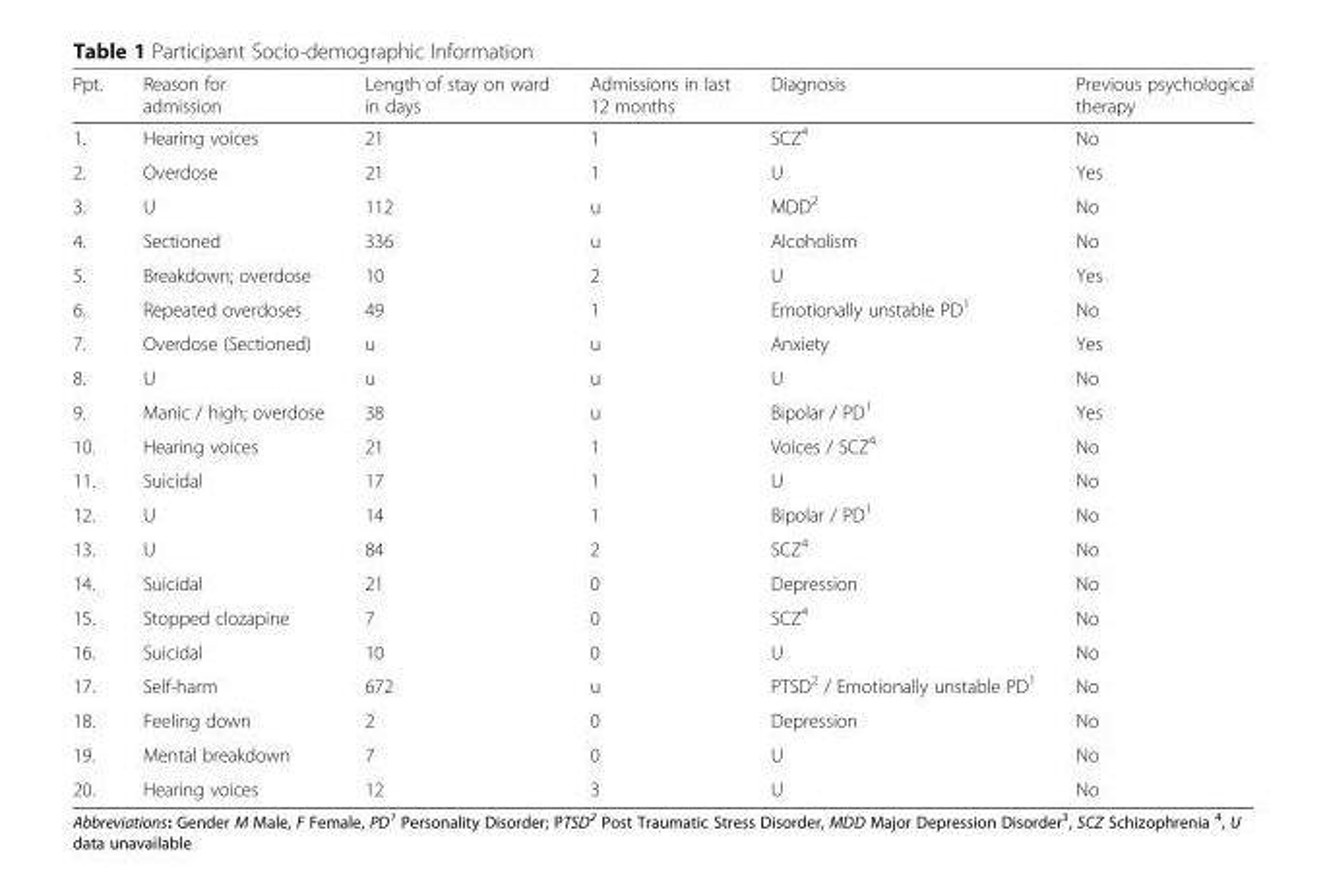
<table><thead><tr><td>Ppt.</td><td>Reason for admission</td><td>Length of stay on ward in days</td><td>Admissions in last 12 months</td><td>Diagnosis</td><td>Previous psychological therapy</td></tr></thead><tbody><tr><td>1.</td><td>Hearing voices</td><td>21</td><td>1</td><td>SCZ<sup>4</sup></td><td>No</td></tr><tr><td>2.</td><td>Overdose</td><td>21</td><td>1</td><td>U</td><td>Yes</td></tr><tr><td>3.</td><td>U</td><td>112</td><td>u</td><td>MDD<sup>2</sup></td><td>No</td></tr><tr><td>4.</td><td>Sectioned</td><td>336</td><td>u</td><td>Alcoholism</td><td>No</td></tr><tr><td>5.</td><td>Breakdown; overdose</td><td>10</td><td>2</td><td>U</td><td>Yes</td></tr><tr><td>6.</td><td>Repeated overdoses</td><td>49</td><td>1</td><td>Emotionally unstable PD<sup>1</sup></td><td>No</td></tr><tr><td>7.</td><td>Overdose (Sectioned)</td><td>u</td><td>u</td><td>Anxiety</td><td>Yes</td></tr><tr><td>8.</td><td>U</td><td>u</td><td>u</td><td>U</td><td>No</td></tr><tr><td>9.</td><td>Manic / high; overdose</td><td>38</td><td>u</td><td>Bipolar / PD<sup>1</sup></td><td>Yes</td></tr><tr><td>10.</td><td>Hearing voices</td><td>21</td><td>1</td><td>Voices / SCZ<sup>4</sup></td><td>No</td></tr><tr><td>11.</td><td>Suicidal</td><td>17</td><td>1</td><td>U</td><td>No</td></tr><tr><td>12.</td><td>U</td><td>14</td><td>1</td><td>Bipolar / PD<sup>1</sup></td><td>No</td></tr><tr><td>13.</td><td>U</td><td>84</td><td>2</td><td>SCZ<sup>4</sup></td><td>No</td></tr><tr><td>14.</td><td>Suicidal</td><td>21</td><td>0</td><td>Depression</td><td>No</td></tr><tr><td>15.</td><td>Stopped clozapine</td><td>7</td><td>0</td><td>SCZ<sup>4</sup></td><td>No</td></tr><tr><td>16.</td><td>Suicidal</td><td>10</td><td>0</td><td>U</td><td>No</td></tr><tr><td>17.</td><td>Self-harm</td><td>672</td><td>u</td><td>PTSD<sup>2</sup> / Emotionally unstable PD<sup>1</sup></td><td>No</td></tr><tr><td>18.</td><td>Feeling down</td><td>2</td><td>0</td><td>Depression</td><td>No</td></tr><tr><td>19.</td><td>Mental breakdown</td><td>7</td><td>0</td><td>U</td><td>No</td></tr><tr><td>20.</td><td>Hearing voices</td><td>12</td><td>3</td><td>U</td><td>No</td></tr></tbody></table>